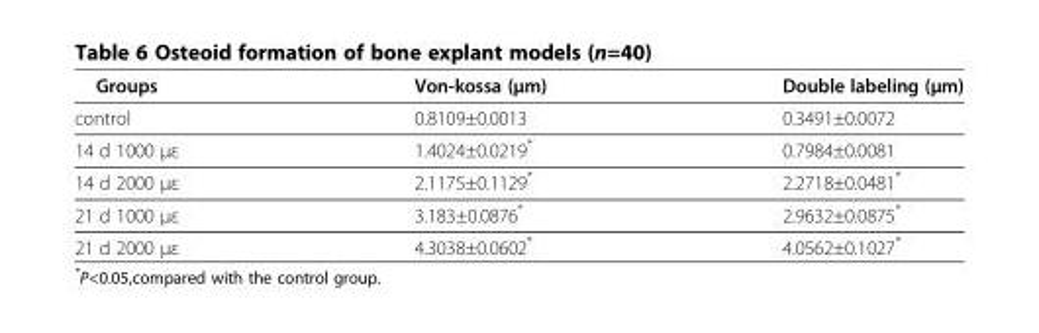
<table><thead><tr><td>Groups</td><td>Von-kossa (μm)</td><td>Double labeling (μm)</td></tr></thead><tbody><tr><td>control</td><td>0.8109±0.0013</td><td>0.3491±0.0072</td></tr><tr><td>14 d 1000 με</td><td>1.4024±0.0219*</td><td>0.7984±0.0081</td></tr><tr><td>14 d 2000 με</td><td>2.1175±0.1129*</td><td>2.2718±0.0481*</td></tr><tr><td>21 d 1000 με</td><td>3.183±0.0876*</td><td>2.9632±0.0875*</td></tr><tr><td>21 d 2000 με</td><td>4.3038±0.0602*</td><td>4.0562±0.1027*</td></tr></tbody></table>